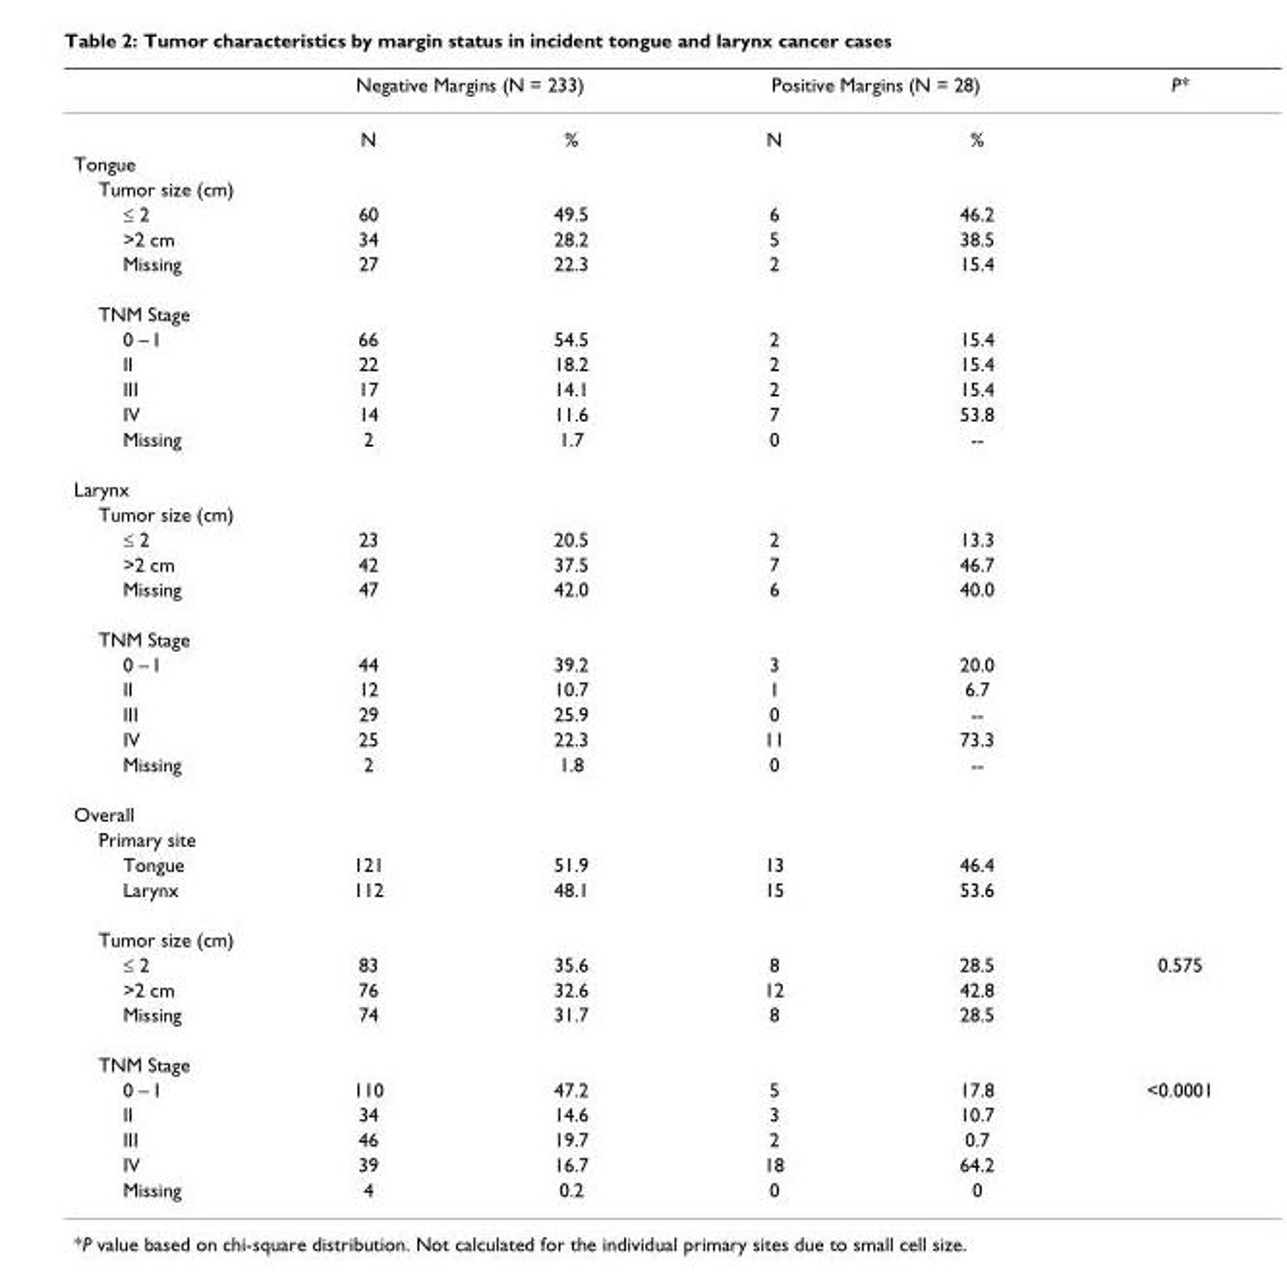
<table><thead><tr><td rowspan="2"></td><td colspan="2">Negative Margins (N = 233)</td><td colspan="2">Positive Margins (N = 28)</td><td rowspan="2">P*</td></tr><tr><td>N</td><td>%</td><td>N</td><td>%</td></tr></thead><tbody><tr><td colspan="6">Tongue</td></tr><tr><td colspan="6">Tumor size (cm)</td></tr><tr><td>≤ 2</td><td>60</td><td>49.5</td><td>6</td><td>46.2</td><td></td></tr><tr><td>&gt;2 cm</td><td>34</td><td>28.2</td><td>5</td><td>38.5</td><td></td></tr><tr><td>Missing</td><td>27</td><td>22.3</td><td>2</td><td>15.4</td><td></td></tr><tr><td colspan="6">TNM Stage</td></tr><tr><td>0 – I</td><td>66</td><td>54.5</td><td>2</td><td>15.4</td><td></td></tr><tr><td>II</td><td>22</td><td>18.2</td><td>2</td><td>15.4</td><td></td></tr><tr><td>III</td><td>17</td><td>14.1</td><td>2</td><td>15.4</td><td></td></tr><tr><td>IV</td><td>14</td><td>11.6</td><td>7</td><td>53.8</td><td></td></tr><tr><td>Missing</td><td>2</td><td>1.7</td><td>0</td><td>--</td><td></td></tr><tr><td colspan="6">Larynx</td></tr><tr><td colspan="6">Tumor size (cm)</td></tr><tr><td>≤ 2</td><td>23</td><td>20.5</td><td>2</td><td>13.3</td><td></td></tr><tr><td>&gt;2 cm</td><td>42</td><td>37.5</td><td>7</td><td>46.7</td><td></td></tr><tr><td>Missing</td><td>47</td><td>42.0</td><td>6</td><td>40.0</td><td></td></tr><tr><td colspan="6">TNM Stage</td></tr><tr><td>0 – I</td><td>44</td><td>39.2</td><td>3</td><td>20.0</td><td></td></tr><tr><td>II</td><td>12</td><td>10.7</td><td>1</td><td>6.7</td><td></td></tr><tr><td>III</td><td>29</td><td>25.9</td><td>0</td><td>--</td><td></td></tr><tr><td>IV</td><td>25</td><td>22.3</td><td>11</td><td>73.3</td><td></td></tr><tr><td>Missing</td><td>2</td><td>1.8</td><td>0</td><td>--</td><td></td></tr><tr><td colspan="6">Overall</td></tr><tr><td colspan="6">Primary site</td></tr><tr><td>Tongue</td><td>121</td><td>51.9</td><td>13</td><td>46.4</td><td></td></tr><tr><td>Larynx</td><td>112</td><td>48.1</td><td>15</td><td>53.6</td><td></td></tr><tr><td colspan="6">Tumor size (cm)</td></tr><tr><td>≤ 2</td><td>83</td><td>35.6</td><td>8</td><td>28.5</td><td>0.575</td></tr><tr><td>&gt;2 cm</td><td>76</td><td>32.6</td><td>12</td><td>42.8</td><td></td></tr><tr><td>Missing</td><td>74</td><td>31.7</td><td>8</td><td>28.5</td><td></td></tr><tr><td colspan="6">TNM Stage</td></tr><tr><td>0 – I</td><td>110</td><td>47.2</td><td>5</td><td>17.8</td><td>&lt;0.0001</td></tr><tr><td>II</td><td>34</td><td>14.6</td><td>3</td><td>10.7</td><td></td></tr><tr><td>III</td><td>46</td><td>19.7</td><td>2</td><td>0.7</td><td></td></tr><tr><td>IV</td><td>39</td><td>16.7</td><td>18</td><td>64.2</td><td></td></tr><tr><td>Missing</td><td>4</td><td>0.2</td><td>0</td><td>0</td><td></td></tr></tbody></table>